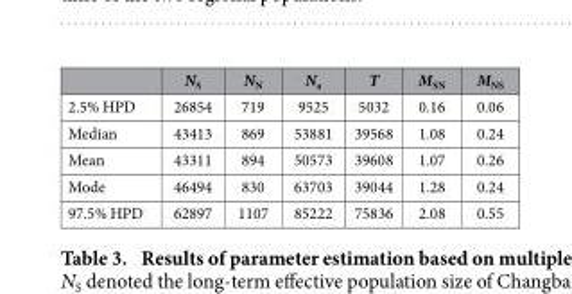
<table><thead><tr><td></td><td>N<sub>S</sub></td><td>N<sub>N</sub></td><td>N<sub>a</sub></td><td>T</td><td>M<sub>SN</sub></td><td>M<sub>NS</sub></td></tr></thead><tbody><tr><td>2.5% HPD</td><td>26854</td><td>719</td><td>9525</td><td>5032</td><td>0.16</td><td>0.06</td></tr><tr><td>Median</td><td>43413</td><td>869</td><td>53881</td><td>39568</td><td>1.08</td><td>0.24</td></tr><tr><td>Mean</td><td>43311</td><td>894</td><td>50573</td><td>39608</td><td>1.07</td><td>0.26</td></tr><tr><td>Mode</td><td>46494</td><td>830</td><td>63703</td><td>39044</td><td>1.28</td><td>0.24</td></tr><tr><td>97.5% HPD</td><td>62897</td><td>1107</td><td>85222</td><td>75836</td><td>2.08</td><td>0.55</td></tr></tbody></table>